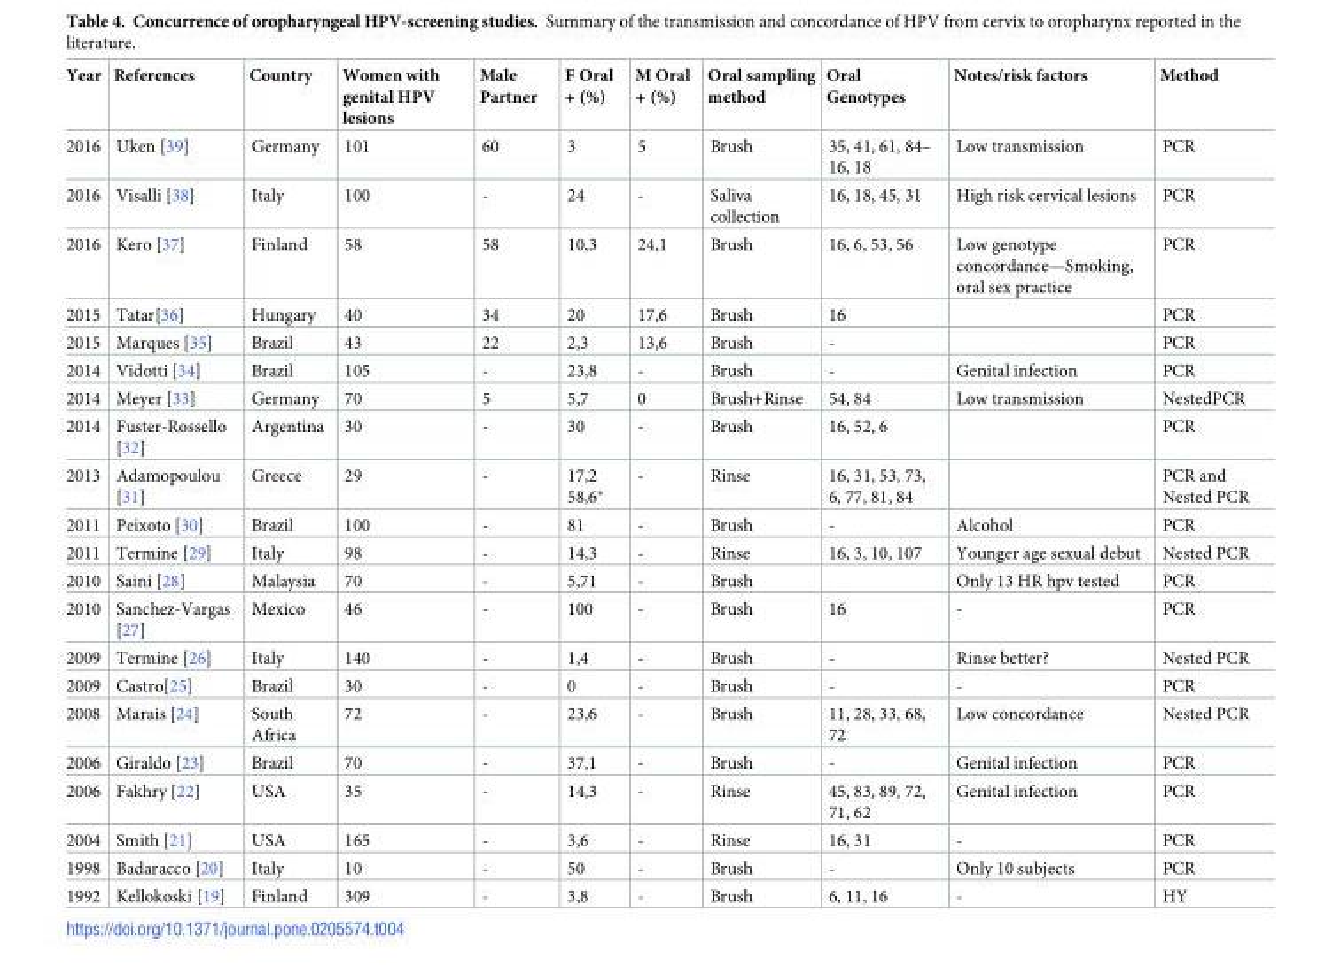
<table><thead><tr><td>Year</td><td>References</td><td>Country</td><td>Women with genital HPV lesions</td><td>Male Partner</td><td>F Oral + (%)</td><td>M Oral + (%)</td><td>Oral sampling method</td><td>Oral Genotypes</td><td>Notes/risk factors</td><td>Method</td></tr></thead><tbody><tr><td>2016</td><td>Uken [39]</td><td>Germany</td><td>101</td><td>60</td><td>3</td><td>5</td><td>Brush</td><td>35, 41, 61, 84– 16, 18</td><td>Low transmission</td><td>PCR</td></tr><tr><td>2016</td><td>Visalli [38]</td><td>Italy</td><td>100</td><td>-</td><td>24</td><td>-</td><td>Saliva collection</td><td>16, 18, 45, 31</td><td>High risk cervical lesions</td><td>PCR</td></tr><tr><td>2016</td><td>Kero [37]</td><td>Finland</td><td>58</td><td>58</td><td>10,3</td><td>24,1</td><td>Brush</td><td>16, 6, 53, 56</td><td>Low genotype concordance—Smoking, oral sex practice</td><td>PCR</td></tr><tr><td>2015</td><td>Tatar[36]</td><td>Hungary</td><td>40</td><td>34</td><td>20</td><td>17,6</td><td>Brush</td><td>16</td><td></td><td>PCR</td></tr><tr><td>2015</td><td>Marques [35]</td><td>Brazil</td><td>43</td><td>22</td><td>2,3</td><td>13,6</td><td>Brush</td><td>-</td><td></td><td>PCR</td></tr><tr><td>2014</td><td>Vidotti [34]</td><td>Brazil</td><td>105</td><td>-</td><td>23,8</td><td>-</td><td>Brush</td><td>-</td><td>Genital infection</td><td>PCR</td></tr><tr><td>2014</td><td>Meyer [33]</td><td>Germany</td><td>70</td><td>5</td><td>5,7</td><td>0</td><td>Brush+Rinse</td><td>54, 84</td><td>Low transmission</td><td>NestedPCR</td></tr><tr><td>2014</td><td>Fuster-Rossello [32]</td><td>Argentina</td><td>30</td><td>-</td><td>30</td><td>-</td><td>Brush</td><td>16, 52, 6</td><td></td><td>PCR</td></tr><tr><td>2013</td><td>Adamopoulou [31]</td><td>Greece</td><td>29</td><td>-</td><td>17,2 58,6*</td><td>-</td><td>Rinse</td><td>16, 31, 53, 73, 6, 77, 81, 84</td><td></td><td>PCR and Nested PCR</td></tr><tr><td>2011</td><td>Peixoto [30]</td><td>Brazil</td><td>100</td><td>-</td><td>81</td><td>-</td><td>Brush</td><td>-</td><td>Alcohol</td><td>PCR</td></tr><tr><td>2011</td><td>Termine [29]</td><td>Italy</td><td>98</td><td>-</td><td>14,3</td><td>-</td><td>Rinse</td><td>16, 3, 10, 107</td><td>Younger age sexual debut</td><td>Nested PCR</td></tr><tr><td>2010</td><td>Saini [28]</td><td>Malaysia</td><td>70</td><td>-</td><td>5,71</td><td>-</td><td>Brush</td><td></td><td>Only 13 HR hpv tested</td><td>PCR</td></tr><tr><td>2010</td><td>Sanchez-Vargas [27]</td><td>Mexico</td><td>46</td><td>-</td><td>100</td><td>-</td><td>Brush</td><td>16</td><td>-</td><td>PCR</td></tr><tr><td>2009</td><td>Termine [26]</td><td>Italy</td><td>140</td><td>-</td><td>1,4</td><td>-</td><td>Brush</td><td>-</td><td>Rinse better?</td><td>Nested PCR</td></tr><tr><td>2009</td><td>Castro[25]</td><td>Brazil</td><td>30</td><td>-</td><td>0</td><td>-</td><td>Brush</td><td>-</td><td>-</td><td>PCR</td></tr><tr><td>2008</td><td>Marais [24]</td><td>South Africa</td><td>72</td><td>-</td><td>23,6</td><td>-</td><td>Brush</td><td>11, 28, 33, 68, 72</td><td>Low concordance</td><td>Nested PCR</td></tr><tr><td>2006</td><td>Giraldo [23]</td><td>Brazil</td><td>70</td><td>-</td><td>37,1</td><td>-</td><td>Brush</td><td>-</td><td>Genital infection</td><td>PCR</td></tr><tr><td>2006</td><td>Fakhry [22]</td><td>USA</td><td>35</td><td>-</td><td>14,3</td><td>-</td><td>Rinse</td><td>45, 83, 89, 72, 71, 62</td><td>Genital infection</td><td>PCR</td></tr><tr><td>2004</td><td>Smith [21]</td><td>USA</td><td>165</td><td>-</td><td>3,6</td><td>-</td><td>Rinse</td><td>16, 31</td><td>-</td><td>PCR</td></tr><tr><td>1998</td><td>Badaracco [20]</td><td>Italy</td><td>10</td><td>-</td><td>50</td><td>-</td><td>Brush</td><td>-</td><td>Only 10 subjects</td><td>PCR</td></tr><tr><td>1992</td><td>Kellokoski [19]</td><td>Finland</td><td>309</td><td>-</td><td>3,8</td><td>-</td><td>Brush</td><td>6, 11, 16</td><td>-</td><td>HY</td></tr></tbody></table>